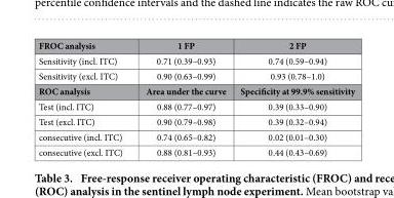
<table><thead><tr><td>FROC analysis</td><td>1 FP</td><td>2 FP</td></tr></thead><tbody><tr><td>Sensitivity (incl. ITC)</td><td>0.71 (0.39–0.93)</td><td>0.74 (0.59–0.94)</td></tr><tr><td>Sensitivity (excl. ITC)</td><td>0.90 (0.63–0.99)</td><td>0.93 (0.78–1.0)</td></tr><tr><td>ROC analysis</td><td>Area under the curve</td><td>Specificity at 99.9% sensitivity</td></tr><tr><td>Test (incl. ITC)</td><td>0.88 (0.77–0.97)</td><td>0.39 (0.33–0.90)</td></tr><tr><td>Test (excl. ITC)</td><td>0.90 (0.79–0.98)</td><td>0.39 (0.32–0.94)</td></tr><tr><td>consecutive (incl. ITC)</td><td>0.74 (0.65–0.82)</td><td>0.02 (0.01–0.30)</td></tr><tr><td>consecutive (excl. ITC)</td><td>0.88 (0.81–0.93)</td><td>0.44 (0.43–0.69)</td></tr></tbody></table>